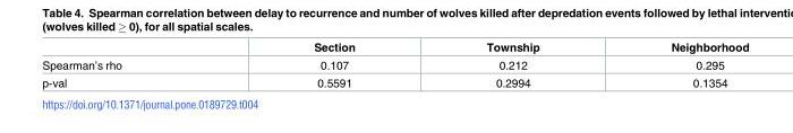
<table><thead><tr><td></td><td>Section</td><td>Township</td><td>Neighborhood</td></tr></thead><tbody><tr><td>Spearman’s rho</td><td>0.107</td><td>0.212</td><td>0.295</td></tr><tr><td>p-val</td><td>0.5591</td><td>0.2994</td><td>0.1354</td></tr></tbody></table>